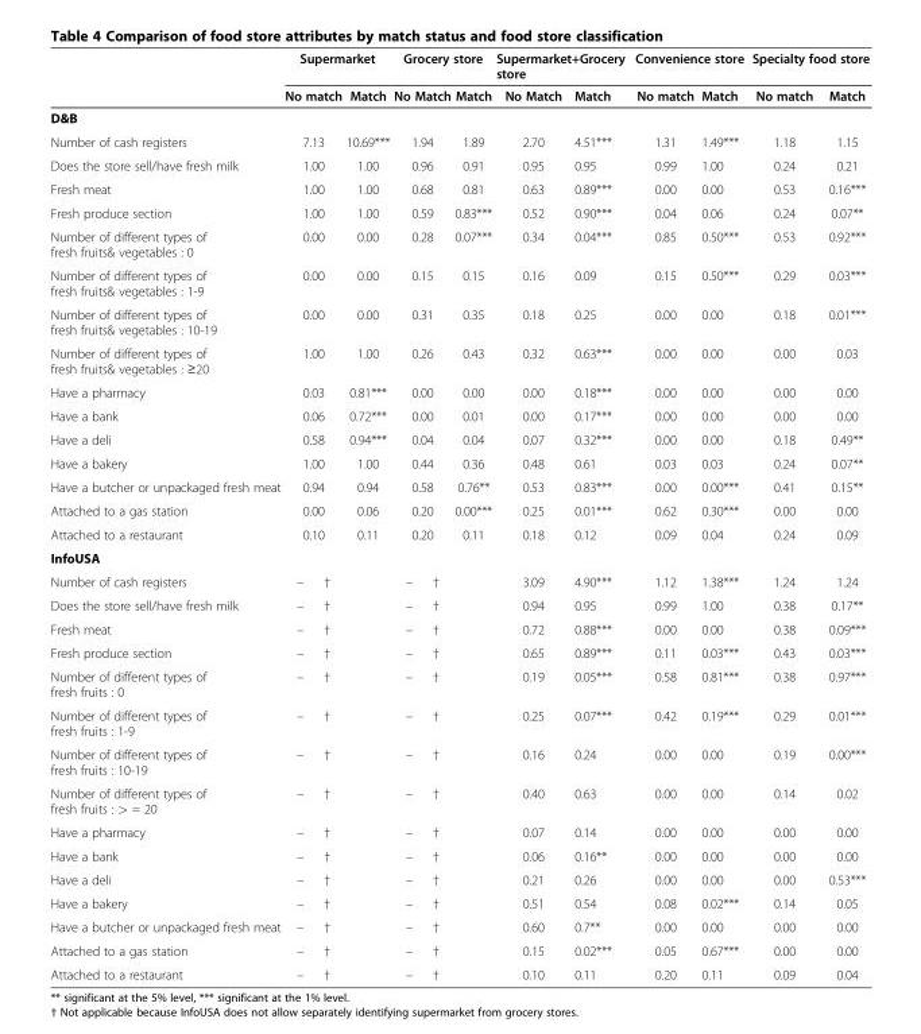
<table><thead><tr><td rowspan="2"></td><td colspan="2">Supermarket</td><td colspan="2">Grocery store</td><td colspan="2">Supermarket+Grocery store</td><td colspan="2">Convenience store</td><td colspan="2">Specialty food store</td></tr><tr><td>No match</td><td>Match</td><td>No Match</td><td>Match</td><td>No Match</td><td>Match</td><td>No match</td><td>Match</td><td>No match</td><td>Match</td></tr></thead><tbody><tr><td colspan="11">D&amp;B</td></tr><tr><td>Number of cash registers</td><td>7.13</td><td>10.69***</td><td>1.94</td><td>1.89</td><td>2.70</td><td>4.51***</td><td>1.31</td><td>1.49***</td><td>1.18</td><td>1.15</td></tr><tr><td>Does the store sell/have fresh milk</td><td>1.00</td><td>1.00</td><td>0.96</td><td>0.91</td><td>0.95</td><td>0.95</td><td>0.99</td><td>1.00</td><td>0.24</td><td>0.21</td></tr><tr><td>Fresh meat</td><td>1.00</td><td>1.00</td><td>0.68</td><td>0.81</td><td>0.63</td><td>0.89***</td><td>0.00</td><td>0.00</td><td>0.53</td><td>0.16***</td></tr><tr><td>Fresh produce section</td><td>1.00</td><td>1.00</td><td>0.59</td><td>0.83***</td><td>0.52</td><td>0.90***</td><td>0.04</td><td>0.06</td><td>0.24</td><td>0.07**</td></tr><tr><td>Number of different types of fresh fruits&amp; vegetables : 0</td><td>0.00</td><td>0.00</td><td>0.28</td><td>0.07***</td><td>0.34</td><td>0.04***</td><td>0.85</td><td>0.50***</td><td>0.53</td><td>0.92***</td></tr><tr><td>Number of different types of fresh fruits&amp; vegetables : 1-9</td><td>0.00</td><td>0.00</td><td>0.15</td><td>0.15</td><td>0.16</td><td>0.09</td><td>0.15</td><td>0.50***</td><td>0.29</td><td>0.03***</td></tr><tr><td>Number of different types of fresh fruits&amp; vegetables : 10-19</td><td>0.00</td><td>0.00</td><td>0.31</td><td>0.35</td><td>0.18</td><td>0.25</td><td>0.00</td><td>0.00</td><td>0.18</td><td>0.01***</td></tr><tr><td>Number of different types of fresh fruits&amp; vegetables : ≥20</td><td>1.00</td><td>1.00</td><td>0.26</td><td>0.43</td><td>0.32</td><td>0.63***</td><td>0.00</td><td>0.00</td><td>0.00</td><td>0.03</td></tr><tr><td>Have a pharmacy</td><td>0.03</td><td>0.81***</td><td>0.00</td><td>0.00</td><td>0.00</td><td>0.18***</td><td>0.00</td><td>0.00</td><td>0.00</td><td>0.00</td></tr><tr><td>Have a bank</td><td>0.06</td><td>0.72***</td><td>0.00</td><td>0.01</td><td>0.00</td><td>0.17***</td><td>0.00</td><td>0.00</td><td>0.00</td><td>0.00</td></tr><tr><td>Have a deli</td><td>0.58</td><td>0.94***</td><td>0.04</td><td>0.04</td><td>0.07</td><td>0.32***</td><td>0.00</td><td>0.00</td><td>0.18</td><td>0.49**</td></tr><tr><td>Have a bakery</td><td>1.00</td><td>1.00</td><td>0.44</td><td>0.36</td><td>0.48</td><td>0.61</td><td>0.03</td><td>0.03</td><td>0.24</td><td>0.07**</td></tr><tr><td>Have a butcher or unpackaged fresh meat</td><td>0.94</td><td>0.94</td><td>0.58</td><td>0.76**</td><td>0.53</td><td>0.83***</td><td>0.00</td><td>0.00***</td><td>0.41</td><td>0.15**</td></tr><tr><td>Attached to a gas station</td><td>0.00</td><td>0.06</td><td>0.20</td><td>0.00***</td><td>0.25</td><td>0.01***</td><td>0.62</td><td>0.30***</td><td>0.00</td><td>0.00</td></tr><tr><td>Attached to a restaurant</td><td>0.10</td><td>0.11</td><td>0.20</td><td>0.11</td><td>0.18</td><td>0.12</td><td>0.09</td><td>0.04</td><td>0.24</td><td>0.09</td></tr><tr><td colspan="11">InfoUSA</td></tr><tr><td>Number of cash registers</td><td>– †</td><td></td><td>– †</td><td></td><td>3.09</td><td>4.90***</td><td>1.12</td><td>1.38***</td><td>1.24</td><td>1.24</td></tr><tr><td>Does the store sell/have fresh milk</td><td>– †</td><td></td><td>– †</td><td></td><td>0.94</td><td>0.95</td><td>0.99</td><td>1.00</td><td>0.38</td><td>0.17**</td></tr><tr><td>Fresh meat</td><td>– †</td><td></td><td>– †</td><td></td><td>0.72</td><td>0.88***</td><td>0.00</td><td>0.00</td><td>0.38</td><td>0.09***</td></tr><tr><td>Fresh produce section</td><td>– †</td><td></td><td>– †</td><td></td><td>0.65</td><td>0.89***</td><td>0.11</td><td>0.03***</td><td>0.43</td><td>0.03***</td></tr><tr><td>Number of different types of fresh fruits : 0</td><td>– †</td><td></td><td>– †</td><td></td><td>0.19</td><td>0.05***</td><td>0.58</td><td>0.81***</td><td>0.38</td><td>0.97***</td></tr><tr><td>Number of different types of fresh fruits : 1-9</td><td>– †</td><td></td><td>– †</td><td></td><td>0.25</td><td>0.07***</td><td>0.42</td><td>0.19***</td><td>0.29</td><td>0.01***</td></tr><tr><td>Number of different types of fresh fruits : 10-19</td><td>– †</td><td></td><td>– †</td><td></td><td>0.16</td><td>0.24</td><td>0.00</td><td>0.00</td><td>0.19</td><td>0.00***</td></tr><tr><td>Number of different types of fresh fruits : &gt; = 20</td><td>– †</td><td></td><td>– †</td><td></td><td>0.40</td><td>0.63</td><td>0.00</td><td>0.00</td><td>0.14</td><td>0.02</td></tr><tr><td>Have a pharmacy</td><td>– †</td><td></td><td>– †</td><td></td><td>0.07</td><td>0.14</td><td>0.00</td><td>0.00</td><td>0.00</td><td>0.00</td></tr><tr><td>Have a bank</td><td>– †</td><td></td><td>– †</td><td></td><td>0.06</td><td>0.16**</td><td>0.00</td><td>0.00</td><td>0.00</td><td>0.00</td></tr><tr><td>Have a deli</td><td>– †</td><td></td><td>– †</td><td></td><td>0.21</td><td>0.26</td><td>0.00</td><td>0.00</td><td>0.00</td><td>0.53***</td></tr><tr><td>Have a bakery</td><td>– †</td><td></td><td>– †</td><td></td><td>0.51</td><td>0.54</td><td>0.08</td><td>0.02***</td><td>0.14</td><td>0.05</td></tr><tr><td>Have a butcher or unpackaged fresh meat</td><td>– †</td><td></td><td>– †</td><td></td><td>0.60</td><td>0.7**</td><td>0.00</td><td>0.00</td><td>0.00</td><td>0.00</td></tr><tr><td>Attached to a gas station</td><td>– †</td><td></td><td>– †</td><td></td><td>0.15</td><td>0.02***</td><td>0.05</td><td>0.67***</td><td>0.00</td><td>0.00</td></tr><tr><td>Attached to a restaurant</td><td>– †</td><td></td><td>– †</td><td></td><td>0.10</td><td>0.11</td><td>0.20</td><td>0.11</td><td>0.09</td><td>0.04</td></tr></tbody></table>